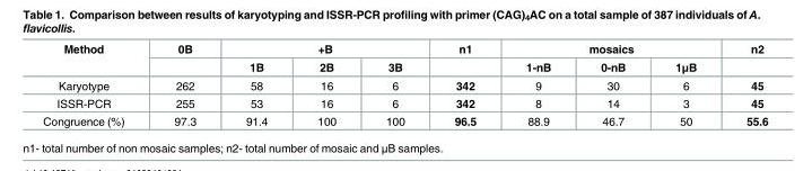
<table><thead><tr><td rowspan="2">Method</td><td rowspan="2">0B</td><td colspan="3">+B</td><td rowspan="2">n1</td><td colspan="3">mosaics</td><td rowspan="2">n2</td></tr><tr><td>1B</td><td>2B</td><td>3B</td><td>1-nB</td><td>0-nB</td><td>1μB</td></tr></thead><tbody><tr><td>Karyotype</td><td>262</td><td>58</td><td>16</td><td>6</td><td>342</td><td>9</td><td>30</td><td>6</td><td>45</td></tr><tr><td>ISSR-PCR</td><td>255</td><td>53</td><td>16</td><td>6</td><td>342</td><td>8</td><td>14</td><td>3</td><td>45</td></tr><tr><td>Congruence (%)</td><td>97.3</td><td>91.4</td><td>100</td><td>100</td><td>96.5</td><td>88.9</td><td>46.7</td><td>50</td><td>55.6</td></tr></tbody></table>